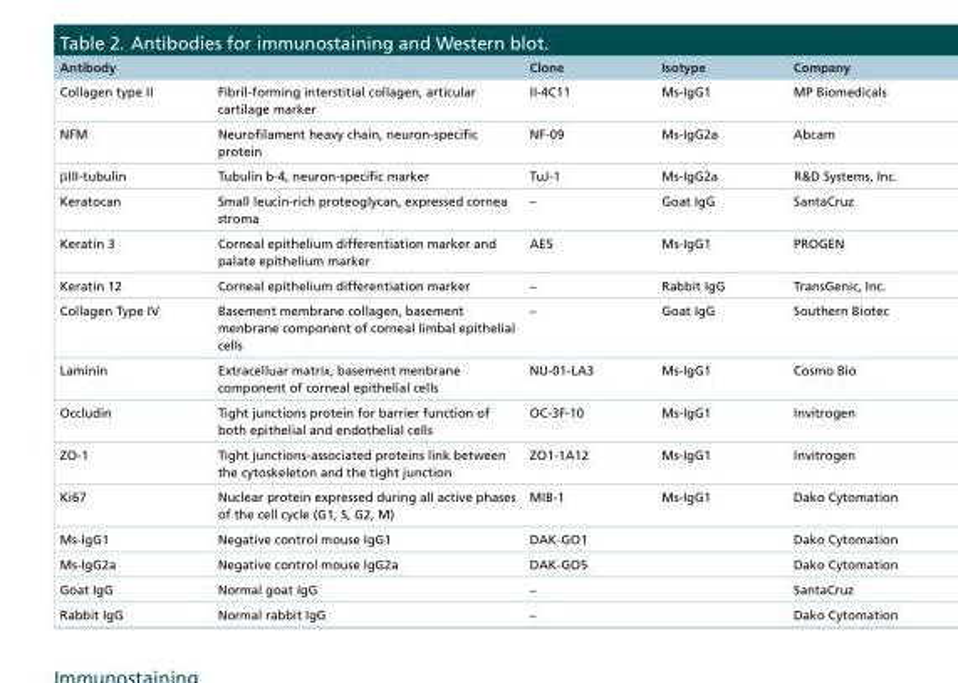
<table><thead><tr><td>Antibody</td><td></td><td>Clone</td><td>Isotype</td><td>Company</td></tr></thead><tbody><tr><td>Collagen type II</td><td>Fibril-forming interstitial collagen, articular cartilage marker</td><td>II-4C11</td><td>Ms-IgG1</td><td>MP Biomedicals</td></tr><tr><td>NFM</td><td>Neurofilament heavy chain, neuron-specific protein</td><td>NF-09</td><td>Ms-IgG2a</td><td>Abcam</td></tr><tr><td>βIII-tubulin</td><td>Tubulin b-4, neuron-specific marker</td><td>TuJ-1</td><td>Ms-IgG2a</td><td>R&amp;D Systems, Inc.</td></tr><tr><td>Keratocan</td><td>Small leucin-rich proteoglycan, expressed cornea stroma</td><td>–</td><td>Goat IgG</td><td>SantaCruz</td></tr><tr><td>Keratin 3</td><td>Corneal epithelium differentiation marker and palate epithelium marker</td><td>AE5</td><td>Ms-IgG1</td><td>PROGEN</td></tr><tr><td>Keratin 12</td><td>Corneal epithelium differentiation marker</td><td>–</td><td>Rabbit IgG</td><td>TransGenic, Inc.</td></tr><tr><td>Collagen Type IV</td><td>Basement membrane collagen, basement menbrane component of corneal limbal epithelial cells</td><td>–</td><td>Goat IgG</td><td>Southern Biotec</td></tr><tr><td>Laminin</td><td>Extracelluar matrix, basement menbrane component of corneal epithelial cells</td><td>NU-01-LA3</td><td>Ms-IgG1</td><td>Cosmo Bio</td></tr><tr><td>Occludin</td><td>Tight junctions protein for barrier function of both epithelial and endothelial cells</td><td>OC-3F-10</td><td>Ms-IgG1</td><td>Invitrogen</td></tr><tr><td>ZO-1</td><td>Tight junctions-associated proteins link between the cytoskeleton and the tight junction</td><td>ZO1-1A12</td><td>Ms-IgG1</td><td>Invitrogen</td></tr><tr><td>Ki67</td><td>Nuclear protein expressed during all active phases of the cell cycle (G1, S, G2, M)</td><td>MIB-1</td><td>Ms-IgG1</td><td>Dako Cytomation</td></tr><tr><td>Ms-IgG1</td><td>Negative control mouse IgG1</td><td>DAK-GO1</td><td></td><td>Dako Cytomation</td></tr><tr><td>Ms-IgG2a</td><td>Negative control mouse IgG2a</td><td>DAK-GO5</td><td></td><td>Dako Cytomation</td></tr><tr><td>Goat IgG</td><td>Normal goat IgG</td><td>–</td><td></td><td>SantaCruz</td></tr><tr><td>Rabbit IgG</td><td>Normal rabbit IgG</td><td>–</td><td></td><td>Dako Cytomation</td></tr></tbody></table>